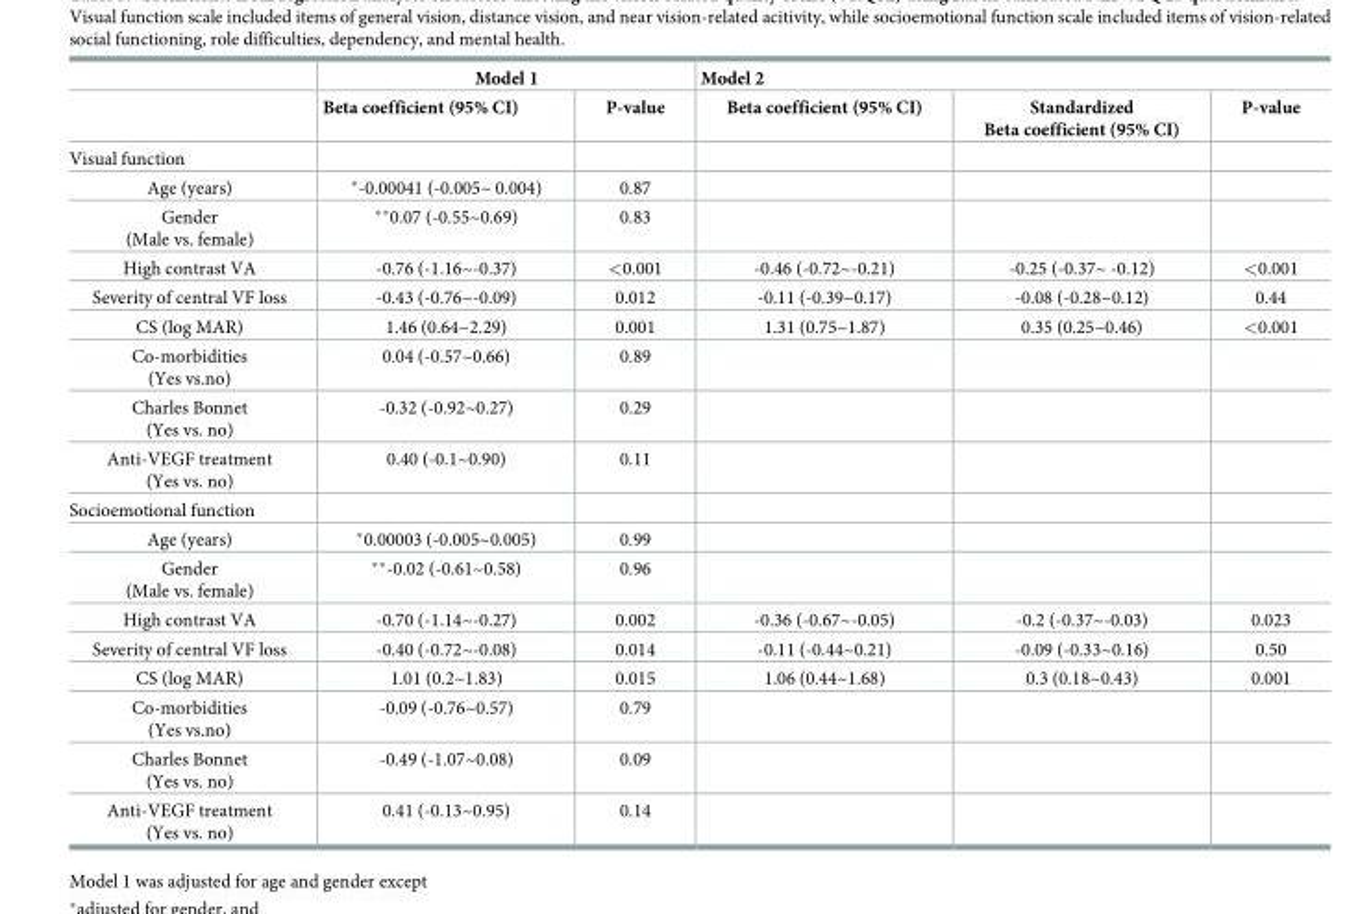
<table><thead><tr><td rowspan="2"></td><td colspan="2">Model 1</td><td colspan="3">Model 2</td></tr><tr><td>Beta coefficient (95% CI)</td><td>P-value</td><td>Beta coefficient (95% CI)</td><td>Standardized Beta coefficient (95% CI)</td><td>P-value</td></tr></thead><tbody><tr><td colspan="6">Visual function</td></tr><tr><td>Age (years)</td><td>*-0.00041 (-0.005~ 0.004)</td><td>0.87</td><td></td><td></td><td></td></tr><tr><td>Gender (Male vs. female)</td><td>**0.07 (-0.55~0.69)</td><td>0.83</td><td></td><td></td><td></td></tr><tr><td>High contrast VA</td><td>-0.76 (-1.16~-0.37)</td><td>&lt;0.001</td><td>-0.46 (-0.72~-0.21)</td><td>-0.25 (-0.37~ -0.12)</td><td>&lt;0.001</td></tr><tr><td>Severity of central VF loss</td><td>-0.43 (-0.76~-0.09)</td><td>0.012</td><td>-0.11 (-0.39~0.17)</td><td>-0.08 (-0.28~0.12)</td><td>0.44</td></tr><tr><td>CS (log MAR)</td><td>1.46 (0.64~2.29)</td><td>0.001</td><td>1.31 (0.75~1.87)</td><td>0.35 (0.25~0.46)</td><td>&lt;0.001</td></tr><tr><td>Co-morbidities (Yes vs.no)</td><td>0.04 (-0.57~0.66)</td><td>0.89</td><td></td><td></td><td></td></tr><tr><td>Charles Bonnet (Yes vs. no)</td><td>-0.32 (-0.92~0.27)</td><td>0.29</td><td></td><td></td><td></td></tr><tr><td>Anti-VEGF treatment (Yes vs. no)</td><td>0.40 (-0.1~0.90)</td><td>0.11</td><td></td><td></td><td></td></tr><tr><td colspan="6">Socioemotional function</td></tr><tr><td>Age (years)</td><td>*0.00003 (-0.005~0.005)</td><td>0.99</td><td></td><td></td><td></td></tr><tr><td>Gender (Male vs. female)</td><td>**-0.02 (-0.61~0.58)</td><td>0.96</td><td></td><td></td><td></td></tr><tr><td>High contrast VA</td><td>-0.70 (-1.14~-0.27)</td><td>0.002</td><td>-0.36 (-0.67~-0.05)</td><td>-0.2 (-0.37~-0.03)</td><td>0.023</td></tr><tr><td>Severity of central VF loss</td><td>-0.40 (-0.72~-0.08)</td><td>0.014</td><td>-0.11 (-0.44~0.21)</td><td>-0.09 (-0.33~0.16)</td><td>0.50</td></tr><tr><td>CS (log MAR)</td><td>1.01 (0.2~1.83)</td><td>0.015</td><td>1.06 (0.44~1.68)</td><td>0.3 (0.18~0.43)</td><td>0.001</td></tr><tr><td>Co-morbidities (Yes vs.no)</td><td>-0.09 (-0.76~0.57)</td><td>0.79</td><td></td><td></td><td></td></tr><tr><td>Charles Bonnet (Yes vs. no)</td><td>-0.49 (-1.07~0.08)</td><td>0.09</td><td></td><td></td><td></td></tr><tr><td>Anti-VEGF treatment (Yes vs. no)</td><td>0.41 (-0.13~0.95)</td><td>0.14</td><td></td><td></td><td></td></tr></tbody></table>